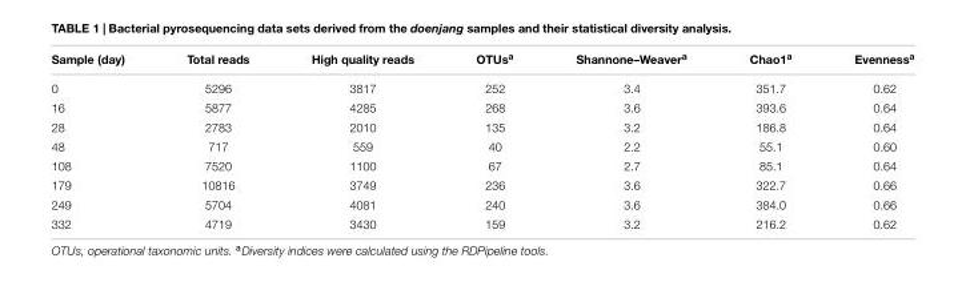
<table><thead><tr><td>Sample (day)</td><td>Total reads</td><td>High quality reads</td><td>OTUs<sup>a</sup></td><td>Shannone–Weaver<sup>a</sup></td><td>Chao1<sup>a</sup></td><td>Evenness<sup>a</sup></td></tr></thead><tbody><tr><td>0</td><td>5296</td><td>3817</td><td>252</td><td>3.4</td><td>351.7</td><td>0.62</td></tr><tr><td>16</td><td>5877</td><td>4285</td><td>268</td><td>3.6</td><td>393.6</td><td>0.64</td></tr><tr><td>28</td><td>2783</td><td>2010</td><td>135</td><td>3.2</td><td>186.8</td><td>0.64</td></tr><tr><td>48</td><td>717</td><td>559</td><td>40</td><td>2.2</td><td>55.1</td><td>0.60</td></tr><tr><td>108</td><td>7520</td><td>1100</td><td>67</td><td>2.7</td><td>85.1</td><td>0.64</td></tr><tr><td>179</td><td>10816</td><td>3749</td><td>236</td><td>3.6</td><td>322.7</td><td>0.66</td></tr><tr><td>249</td><td>5704</td><td>4081</td><td>240</td><td>3.6</td><td>384.0</td><td>0.66</td></tr><tr><td>332</td><td>4719</td><td>3430</td><td>159</td><td>3.2</td><td>216.2</td><td>0.62</td></tr></tbody></table>